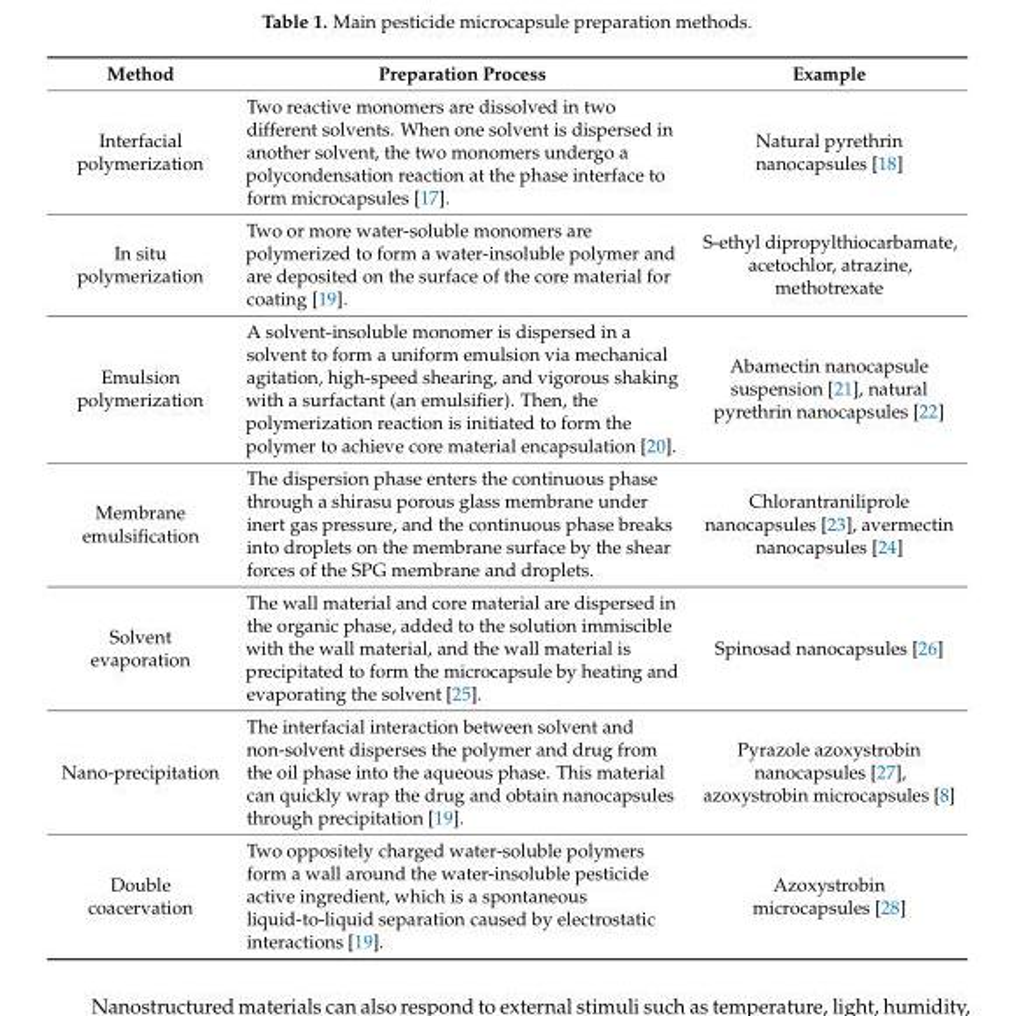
<table><thead><tr><td>Method</td><td>Preparation Process</td><td>Example</td></tr></thead><tbody><tr><td>Interfacial polymerization</td><td>Two reactive monomers are dissolved in two different solvents. When one solvent is dispersed in another solvent, the two monomers undergo a polycondensation reaction at the phase interface to form microcapsules [17].</td><td>Natural pyrethrin nanocapsules [18]</td></tr><tr><td>In situ polymerization</td><td>Two or more water-soluble monomers are polymerized to form a water-insoluble polymer and are deposited on the surface of the core material for coating [19].</td><td>S-ethyl dipropylthiocarbamate, acetochlor, atrazine, methotrexate</td></tr><tr><td>Emulsion polymerization</td><td>A solvent-insoluble monomer is dispersed in a solvent to form a uniform emulsion via mechanical agitation, high-speed shearing, and vigorous shaking with a surfactant (an emulsifier). Then, the polymerization reaction is initiated to form the polymer to achieve core material encapsulation [20].</td><td>Abamectin nanocapsule suspension [21], natural pyrethrin nanocapsules [22]</td></tr><tr><td>Membrane emulsification</td><td>The dispersion phase enters the continuous phase through a shirasu porous glass membrane under inert gas pressure, and the continuous phase breaks into droplets on the membrane surface by the shear forces of the SPG membrane and droplets.</td><td>Chlorantraniliprole nanocapsules [23], avermectin nanocapsules [24]</td></tr><tr><td>Solvent evaporation</td><td>The wall material and core material are dispersed in the organic phase, added to the solution immiscible with the wall material, and the wall material is precipitated to form the microcapsule by heating and evaporating the solvent [25].</td><td>Spinosad nanocapsules [26]</td></tr><tr><td>Nano-precipitation</td><td>The interfacial interaction between solvent and non-solvent disperses the polymer and drug from the oil phase into the aqueous phase. This material can quickly wrap the drug and obtain nanocapsules through precipitation [19].</td><td>Pyrazole azoxystrobin nanocapsules [27], azoxystrobin microcapsules [8]</td></tr><tr><td>Double coacervation</td><td>Two oppositely charged water-soluble polymers form a wall around the water-insoluble pesticide active ingredient, which is a spontaneous liquid-to-liquid separation caused by electrostatic interactions [19].</td><td>Azoxystrobin microcapsules [28]</td></tr></tbody></table>